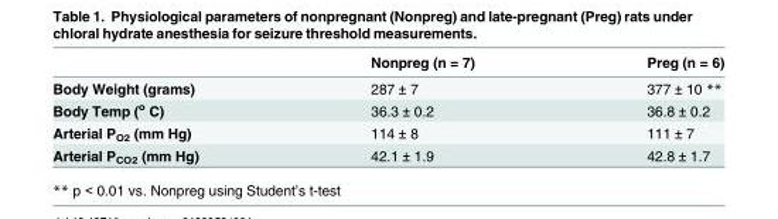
<table><thead><tr><td></td><td>Nonpreg (n = 7)</td><td>Preg (n = 6)</td></tr></thead><tbody><tr><td>Body Weight (grams)</td><td>287 ± 7</td><td>377 ± 10 **</td></tr><tr><td>Body Temp (<sup>o</sup> C)</td><td>36.3 ± 0.2</td><td>36.8 ± 0.2</td></tr><tr><td>Arterial P<sub>O2</sub> (mm Hg)</td><td>114 ± 8</td><td>111 ± 7</td></tr><tr><td>Arterial P<sub>CO2</sub> (mm Hg)</td><td>42.1 ± 1.9</td><td>42.8 ± 1.7</td></tr></tbody></table>